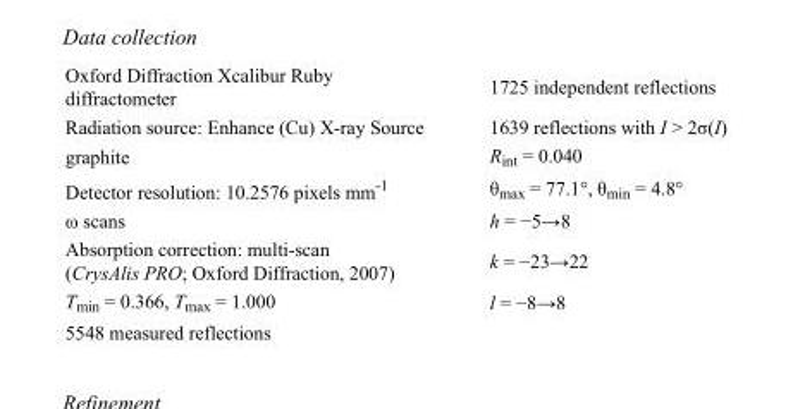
<table><tbody><tr><td>Oxford Diffraction Xcalibur Ruby diffractometer</td><td>1725 independent reflections</td></tr><tr><td>Radiation source: Enhance (Cu) X-ray Source</td><td>1639 reflections with I &gt; 2σ(I)</td></tr><tr><td>graphite</td><td>R<sub>int</sub> = 0.040</td></tr><tr><td>Detector resolution: 10.2576 pixels mm<sup>-1</sup></td><td>θ<sub>max</sub> = 77.1°, θ<sub>min</sub> = 4.8°</td></tr><tr><td>ω scans</td><td>h = −5→8</td></tr><tr><td>Absorption correction: multi-scan (CrysAlis PRO; Oxford Diffraction, 2007)</td><td>k = −23→22</td></tr><tr><td>T<sub>min</sub> = 0.366, T<sub>max</sub> = 1.000</td><td>l = −8→8</td></tr><tr><td>5548 measured reflections</td><td></td></tr></tbody></table>